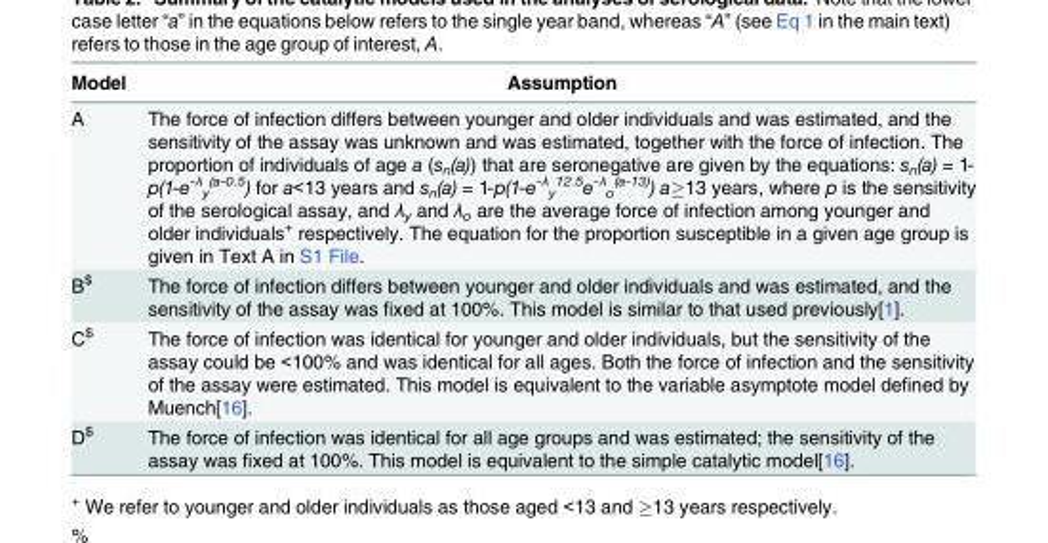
<table><thead><tr><td>Model</td><td>Assumption</td></tr></thead><tbody><tr><td>A</td><td>The force of infection differs between younger and older individuals and was estimated, and the sensitivity of the assay was unknown and was estimated, together with the force of infection. The proportion of individuals of age a (sn(a)) that are seronegative are given by the equations: sn(a) = 1- p(1-e-λ y (a-0.5) for a&lt;13 years and sn(a) = 1-p(1-e-λ y 12.5e-λ o (a-13)) a≥13 years, where p is the sensitivity of the serological assay, and λy and λo are the average force of infection among younger and older individuals+ respectively. The equation for the proportion susceptible in a given age group is given in Text A in S1 File.</td></tr><tr><td>B<sup>$</sup></td><td>The force of infection differs between younger and older individuals and was estimated, and the sensitivity of the assay was fixed at 100%. This model is similar to that used previously[1].</td></tr><tr><td>C<sup>$</sup></td><td>The force of infection was identical for younger and older individuals, but the sensitivity of the assay could be &lt;100% and was identical for all ages. Both the force of infection and the sensitivity of the assay were estimated. This model is equivalent to the variable asymptote model defined by Muench[16].</td></tr><tr><td>D<sup>$</sup></td><td>The force of infection was identical for all age groups and was estimated; the sensitivity of the assay was fixed at 100%. This model is equivalent to the simple catalytic model[16].</td></tr></tbody></table>